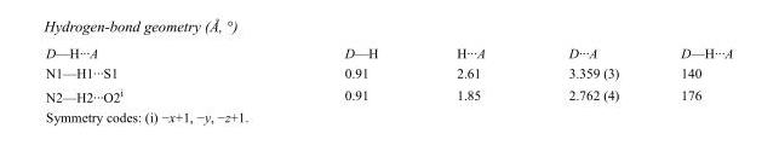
<table><tbody><tr><td>D—H···A</td><td>D—H</td><td>H···A</td><td>D···A</td><td>D—H···A</td></tr><tr><td>N1—H1···S1</td><td>0.91</td><td>2.61</td><td>3.359 (3)</td><td>140</td></tr><tr><td>N2—H2···O2<sup>i</sup></td><td>0.91</td><td>1.85</td><td>2.762 (4)</td><td>176</td></tr></tbody></table>